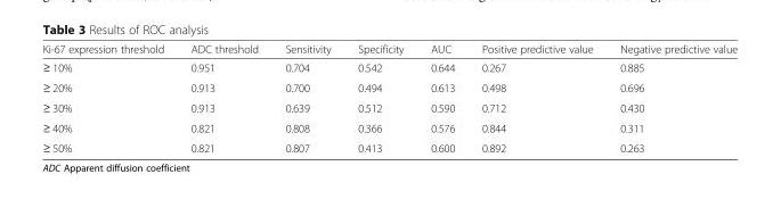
<table><thead><tr><td>Ki-67 expression threshold</td><td>ADC threshold</td><td>Sensitivity</td><td>Specificity</td><td>AUC</td><td>Positive predictive value</td><td>Negative predictive value</td></tr></thead><tbody><tr><td>≥ 10%</td><td>0.951</td><td>0.704</td><td>0.542</td><td>0.644</td><td>0.267</td><td>0.885</td></tr><tr><td>≥ 20%</td><td>0.913</td><td>0.700</td><td>0.494</td><td>0.613</td><td>0.498</td><td>0.696</td></tr><tr><td>≥ 30%</td><td>0.913</td><td>0.639</td><td>0.512</td><td>0.590</td><td>0.712</td><td>0.430</td></tr><tr><td>≥ 40%</td><td>0.821</td><td>0.808</td><td>0.366</td><td>0.576</td><td>0.844</td><td>0.311</td></tr><tr><td>≥ 50%</td><td>0.821</td><td>0.807</td><td>0.413</td><td>0.600</td><td>0.892</td><td>0.263</td></tr></tbody></table>